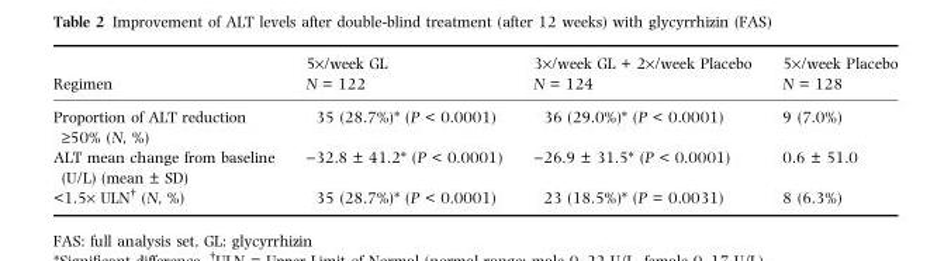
<table><thead><tr><td>Regimen</td><td>5×/week GL N = 122</td><td>3×/week GL + 2×/week Placebo N = 124</td><td>5×/week Placebo N = 128</td></tr></thead><tbody><tr><td>Proportion of ALT reduction ‡50% (N, %)</td><td>35 (28.7%)* (P &lt; 0.0001)</td><td>36 (29.0%)* (P &lt; 0.0001)</td><td>9 (7.0%)</td></tr><tr><td>ALT mean change from baseline (U/L) (mean ± SD)</td><td>−32.8 ± 41.2* (P &lt; 0.0001)</td><td>−26.9 ± 31.5* (P &lt; 0.0001)</td><td>0.6 ± 51.0</td></tr><tr><td>&lt;1.5× ULN† (N, %)</td><td>35 (28.7%)* (P &lt; 0.0001)</td><td>23 (18.5%)* (P = 0.0031)</td><td>8 (6.3%)</td></tr></tbody></table>